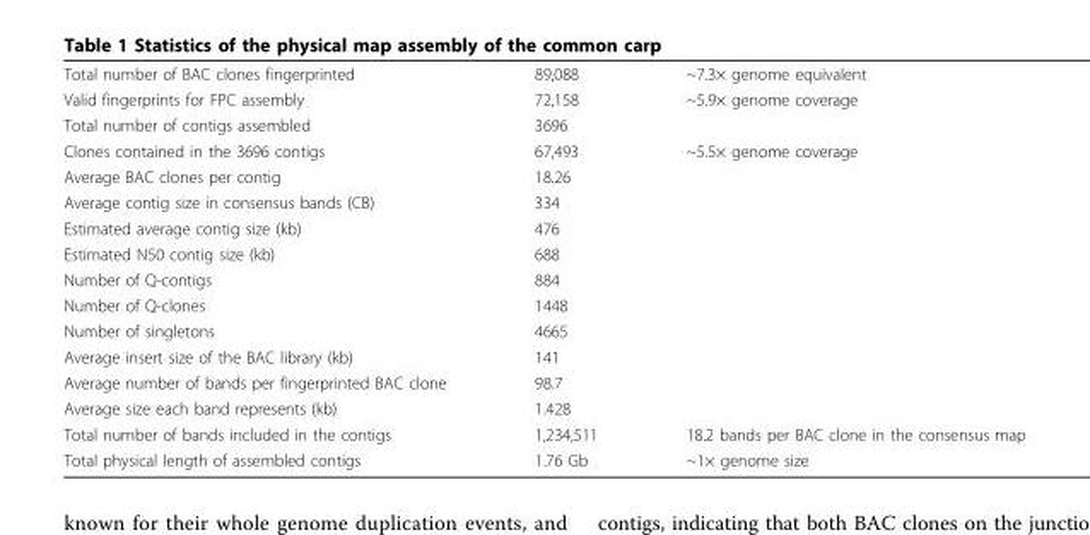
<table><tbody><tr><td>Total number of BAC clones fingerprinted</td><td>89,088</td><td>~7.3× genome equivalent</td></tr><tr><td>Valid fingerprints for FPC assembly</td><td>72,158</td><td>~5.9× genome coverage</td></tr><tr><td>Total number of contigs assembled</td><td>3696</td><td></td></tr><tr><td>Clones contained in the 3696 contigs</td><td>67,493</td><td>~5.5× genome coverage</td></tr><tr><td>Average BAC clones per contig</td><td>18.26</td><td></td></tr><tr><td>Average contig size in consensus bands (CB)</td><td>334</td><td></td></tr><tr><td>Estimated average contig size (kb)</td><td>476</td><td></td></tr><tr><td>Estimated N50 contig size (kb)</td><td>688</td><td></td></tr><tr><td>Number of Q-contigs</td><td>884</td><td></td></tr><tr><td>Number of Q-clones</td><td>1448</td><td></td></tr><tr><td>Number of singletons</td><td>4665</td><td></td></tr><tr><td>Average insert size of the BAC library (kb)</td><td>141</td><td></td></tr><tr><td>Average number of bands per fingerprinted BAC clone</td><td>98.7</td><td></td></tr><tr><td>Average size each band represents (kb)</td><td>1.428</td><td></td></tr><tr><td>Total number of bands included in the contigs</td><td>1,234,511</td><td>18.2 bands per BAC clone in the consensus map</td></tr><tr><td>Total physical length of assembled contigs</td><td>1.76 Gb</td><td>~1× genome size</td></tr></tbody></table>